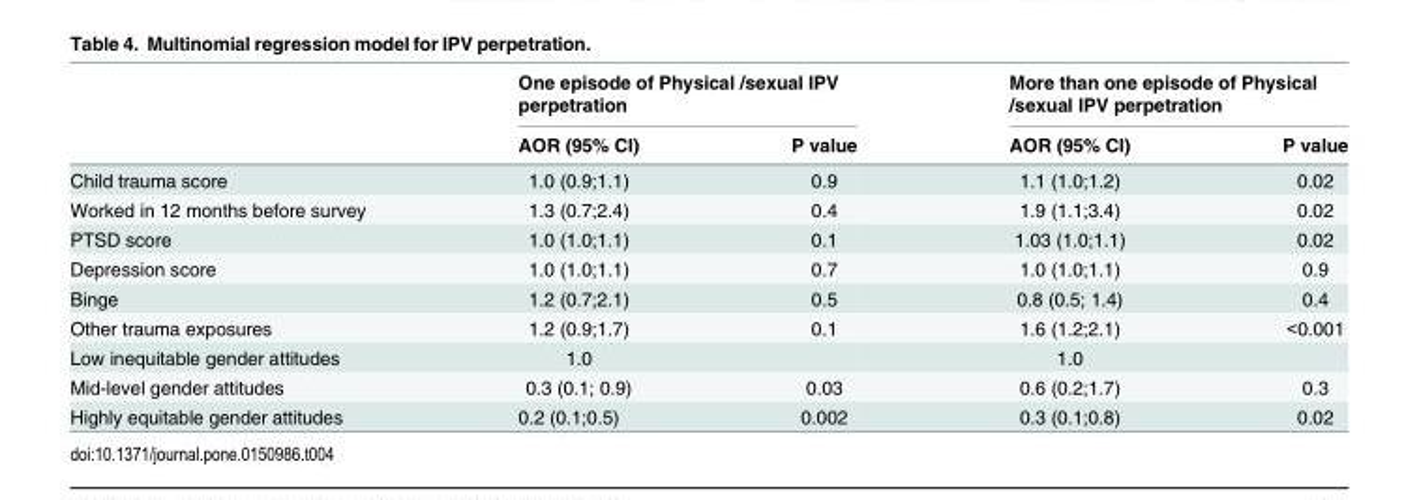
<table><thead><tr><td rowspan="2"></td><td colspan="2">One episode of Physical /sexual IPV perpetration</td><td colspan="2">More than one episode of Physical /sexual IPV perpetration</td></tr><tr><td>AOR (95% CI)</td><td>P value</td><td>AOR (95% CI)</td><td>P value</td></tr></thead><tbody><tr><td>Child trauma score</td><td>1.0 (0.9;1.1)</td><td>0.9</td><td>1.1 (1.0;1.2)</td><td>0.02</td></tr><tr><td>Worked in 12 months before survey</td><td>1.3 (0.7;2.4)</td><td>0.4</td><td>1.9 (1.1;3.4)</td><td>0.02</td></tr><tr><td>PTSD score</td><td>1.0 (1.0;1.1)</td><td>0.1</td><td>1.03 (1.0;1.1)</td><td>0.02</td></tr><tr><td>Depression score</td><td>1.0 (1.0;1.1)</td><td>0.7</td><td>1.0 (1.0;1.1)</td><td>0.9</td></tr><tr><td>Binge</td><td>1.2 (0.7;2.1)</td><td>0.5</td><td>0.8 (0.5; 1.4)</td><td>0.4</td></tr><tr><td>Other trauma exposures</td><td>1.2 (0.9;1.7)</td><td>0.1</td><td>1.6 (1.2;2.1)</td><td>&lt;0.001</td></tr><tr><td>Low inequitable gender attitudes</td><td>1.0</td><td></td><td>1.0</td><td></td></tr><tr><td>Mid-level gender attitudes</td><td>0.3 (0.1; 0.9)</td><td>0.03</td><td>0.6 (0.2;1.7)</td><td>0.3</td></tr><tr><td>Highly equitable gender attitudes</td><td>0.2 (0.1;0.5)</td><td>0.002</td><td>0.3 (0.1;0.8)</td><td>0.02</td></tr></tbody></table>